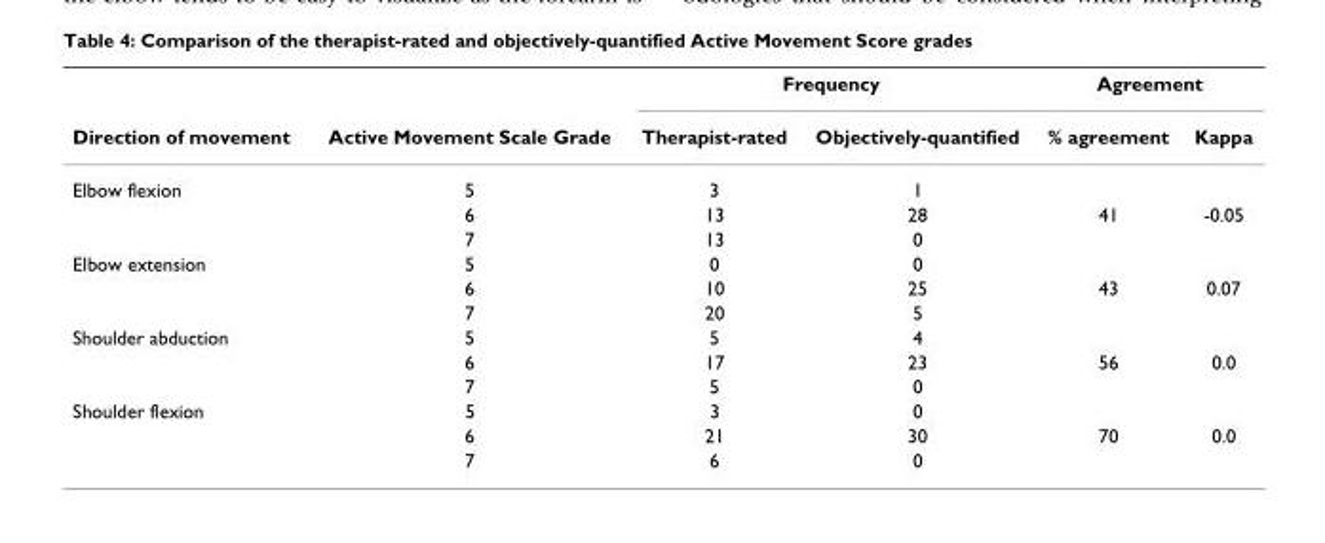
<table><thead><tr><td rowspan="2">Direction of movement</td><td rowspan="2">Active Movement Scale Grade</td><td colspan="2">Frequency</td><td colspan="2">Agreement</td></tr><tr><td>Therapist-rated</td><td>Objectively-quantified</td><td>% agreement</td><td>Kappa</td></tr></thead><tbody><tr><td rowspan="3">Elbow flexion</td><td>5</td><td>3</td><td>1</td><td></td><td></td></tr><tr><td>6</td><td>13</td><td>28</td><td>41</td><td>-0.05</td></tr><tr><td>7</td><td>13</td><td>0</td><td></td><td></td></tr><tr><td rowspan="3">Elbow extension</td><td>5</td><td>0</td><td>0</td><td></td><td></td></tr><tr><td>6</td><td>10</td><td>25</td><td>43</td><td>0.07</td></tr><tr><td>7</td><td>20</td><td>5</td><td></td><td></td></tr><tr><td rowspan="3">Shoulder abduction</td><td>5</td><td>5</td><td>4</td><td></td><td></td></tr><tr><td>6</td><td>17</td><td>23</td><td>56</td><td>0.0</td></tr><tr><td>7</td><td>5</td><td>0</td><td></td><td></td></tr><tr><td rowspan="3">Shoulder flexion</td><td>5</td><td>3</td><td>0</td><td></td><td></td></tr><tr><td>6</td><td>21</td><td>30</td><td>70</td><td>0.0</td></tr><tr><td>7</td><td>6</td><td>0</td><td></td><td></td></tr></tbody></table>